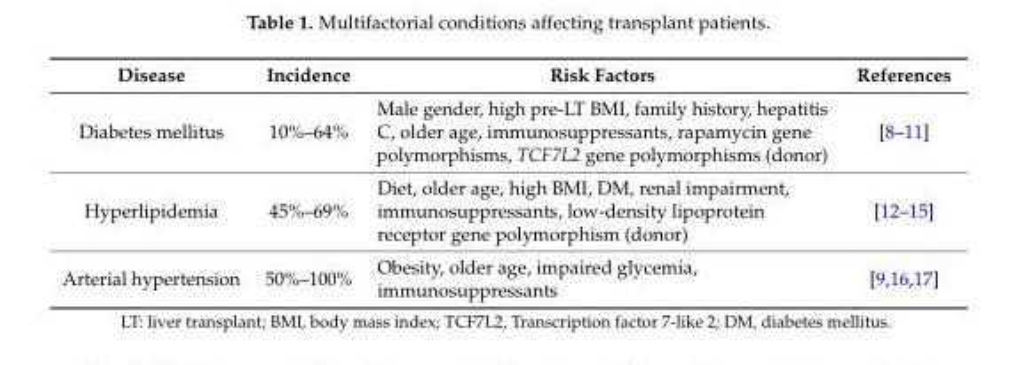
<table><thead><tr><td>Disease</td><td>Incidence</td><td>Risk Factors</td><td>References</td></tr></thead><tbody><tr><td>Diabetes mellitus</td><td>10%–64%</td><td>Male gender, high pre-LT BMI, family history, hepatitis C, older age, immunosuppressants, rapamycin gene polymorphisms, TCF7L2 gene polymorphisms (donor)</td><td>[8–11]</td></tr><tr><td>Hyperlipidemia</td><td>45%–69%</td><td>Diet, older age, high BMI, DM, renal impairment, immunosuppressants, low-density lipoprotein receptor gene polymorphism (donor)</td><td>[12–15]</td></tr><tr><td>Arterial hypertension</td><td>50%–100%</td><td>Obesity, older age, impaired glycemia, immunosuppressants</td><td>[9,16,17]</td></tr></tbody></table>